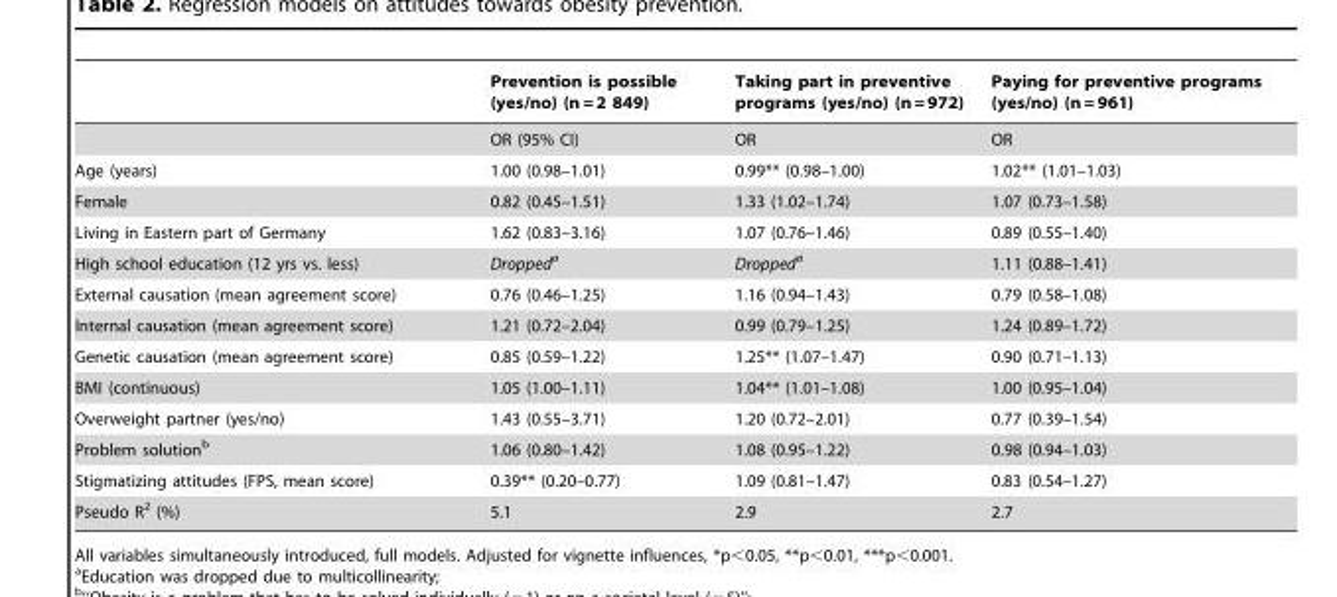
<table><thead><tr><td></td><td>Prevention is possible (yes/no) (n = 2 849)</td><td>Taking part in preventive programs (yes/no) (n = 972)</td><td>Paying for preventive programs (yes/no) (n = 961)</td></tr></thead><tbody><tr><td></td><td>OR (95% CI)</td><td>OR</td><td>OR</td></tr><tr><td>Age (years)</td><td>1.00 (0.98–1.01)</td><td>0.99** (0.98–1.00)</td><td>1.02** (1.01–1.03)</td></tr><tr><td>Female</td><td>0.82 (0.45–1.51)</td><td>1.33 (1.02–1.74)</td><td>1.07 (0.73–1.58)</td></tr><tr><td>Living in Eastern part of Germany</td><td>1.62 (0.83–3.16)</td><td>1.07 (0.76–1.46)</td><td>0.89 (0.55–1.40)</td></tr><tr><td>High school education (12 yrs vs. less)</td><td>Droppeda</td><td>Droppeda</td><td>1.11 (0.88–1.41)</td></tr><tr><td>External causation (mean agreement score)</td><td>0.76 (0.46–1.25)</td><td>1.16 (0.94–1.43)</td><td>0.79 (0.58–1.08)</td></tr><tr><td>Internal causation (mean agreement score)</td><td>1.21 (0.72–2.04)</td><td>0.99 (0.79–1.25)</td><td>1.24 (0.89–1.72)</td></tr><tr><td>Genetic causation (mean agreement score)</td><td>0.85 (0.59–1.22)</td><td>1.25** (1.07–1.47)</td><td>0.90 (0.71–1.13)</td></tr><tr><td>BMI (continuous)</td><td>1.05 (1.00–1.11)</td><td>1.04** (1.01–1.08)</td><td>1.00 (0.95–1.04)</td></tr><tr><td>Overweight partner (yes/no)</td><td>1.43 (0.55–3.71)</td><td>1.20 (0.72–2.01)</td><td>0.77 (0.39–1.54)</td></tr><tr><td>Problem solution<sup>b</sup></td><td>1.06 (0.80–1.42)</td><td>1.08 (0.95–1.22)</td><td>0.98 (0.94–1.03)</td></tr><tr><td>Stigmatizing attitudes (FPS, mean score)</td><td>0.39** (0.20–0.77)</td><td>1.09 (0.81–1.47)</td><td>0.83 (0.54–1.27)</td></tr><tr><td>Pseudo R<sup>2</sup> (%)</td><td>5.1</td><td>2.9</td><td>2.7</td></tr></tbody></table>